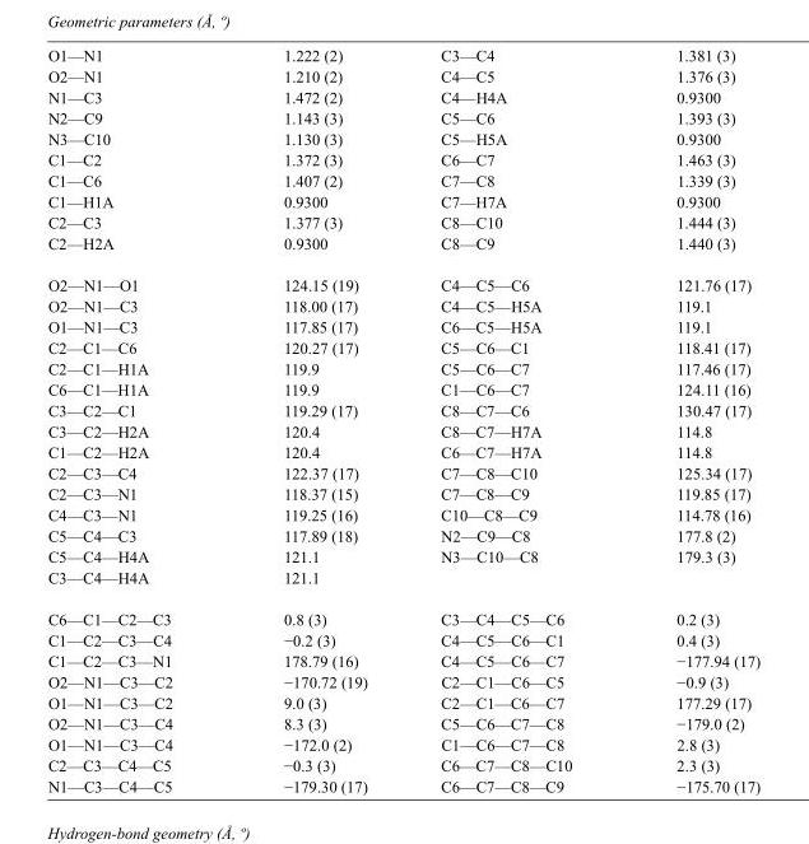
<table><tbody><tr><td>O1—N1</td><td>1.222 (2)</td><td>C3—C4</td><td>1.381 (3)</td></tr><tr><td>O2—N1</td><td>1.210 (2)</td><td>C4—C5</td><td>1.376 (3)</td></tr><tr><td>N1—C3</td><td>1.472 (2)</td><td>C4—H4A</td><td>0.9300</td></tr><tr><td>N2—C9</td><td>1.143 (3)</td><td>C5—C6</td><td>1.393 (3)</td></tr><tr><td>N3—C10</td><td>1.130 (3)</td><td>C5—H5A</td><td>0.9300</td></tr><tr><td>C1—C2</td><td>1.372 (3)</td><td>C6—C7</td><td>1.463 (3)</td></tr><tr><td>C1—C6</td><td>1.407 (2)</td><td>C7—C8</td><td>1.339 (3)</td></tr><tr><td>C1—H1A</td><td>0.9300</td><td>C7—H7A</td><td>0.9300</td></tr><tr><td>C2—C3</td><td>1.377 (3)</td><td>C8—C10</td><td>1.444 (3)</td></tr><tr><td>C2—H2A</td><td>0.9300</td><td>C8—C9</td><td>1.440 (3)</td></tr><tr><td>O2—N1—O1</td><td>124.15 (19)</td><td>C4—C5—C6</td><td>121.76 (17)</td></tr><tr><td>O2—N1—C3</td><td>118.00 (17)</td><td>C4—C5—H5A</td><td>119.1</td></tr><tr><td>O1—N1—C3</td><td>117.85 (17)</td><td>C6—C5—H5A</td><td>119.1</td></tr><tr><td>C2—C1—C6</td><td>120.27 (17)</td><td>C5—C6—C1</td><td>118.41 (17)</td></tr><tr><td>C2—C1—H1A</td><td>119.9</td><td>C5—C6—C7</td><td>117.46 (17)</td></tr><tr><td>C6—C1—H1A</td><td>119.9</td><td>C1—C6—C7</td><td>124.11 (16)</td></tr><tr><td>C3—C2—C1</td><td>119.29 (17)</td><td>C8—C7—C6</td><td>130.47 (17)</td></tr><tr><td>C3—C2—H2A</td><td>120.4</td><td>C8—C7—H7A</td><td>114.8</td></tr><tr><td>C1—C2—H2A</td><td>120.4</td><td>C6—C7—H7A</td><td>114.8</td></tr><tr><td>C2—C3—C4</td><td>122.37 (17)</td><td>C7—C8—C10</td><td>125.34 (17)</td></tr><tr><td>C2—C3—N1</td><td>118.37 (15)</td><td>C7—C8—C9</td><td>119.85 (17)</td></tr><tr><td>C4—C3—N1</td><td>119.25 (16)</td><td>C10—C8—C9</td><td>114.78 (16)</td></tr><tr><td>C5—C4—C3</td><td>117.89 (18)</td><td>N2—C9—C8</td><td>177.8 (2)</td></tr><tr><td>C5—C4—H4A</td><td>121.1</td><td>N3—C10—C8</td><td>179.3 (3)</td></tr><tr><td>C3—C4—H4A</td><td>121.1</td><td></td><td></td></tr><tr><td>C6—C1—C2—C3</td><td>0.8 (3)</td><td>C3—C4—C5—C6</td><td>0.2 (3)</td></tr><tr><td>C1—C2—C3—C4</td><td>−0.2 (3)</td><td>C4—C5—C6—C1</td><td>0.4 (3)</td></tr><tr><td>C1—C2—C3—N1</td><td>178.79 (16)</td><td>C4—C5—C6—C7</td><td>−177.94 (17)</td></tr><tr><td>O2—N1—C3—C2</td><td>−170.72 (19)</td><td>C2—C1—C6—C5</td><td>−0.9 (3)</td></tr><tr><td>O1—N1—C3—C2</td><td>9.0 (3)</td><td>C2—C1—C6—C7</td><td>177.29 (17)</td></tr><tr><td>O2—N1—C3—C4</td><td>8.3 (3)</td><td>C5—C6—C7—C8</td><td>−179.0 (2)</td></tr><tr><td>O1—N1—C3—C4</td><td>−172.0 (2)</td><td>C1—C6—C7—C8</td><td>2.8 (3)</td></tr><tr><td>C2—C3—C4—C5</td><td>−0.3 (3)</td><td>C6—C7—C8—C10</td><td>2.3 (3)</td></tr><tr><td>N1—C3—C4—C5</td><td>−179.30 (17)</td><td>C6—C7—C8—C9</td><td>−175.70 (17)</td></tr></tbody></table>